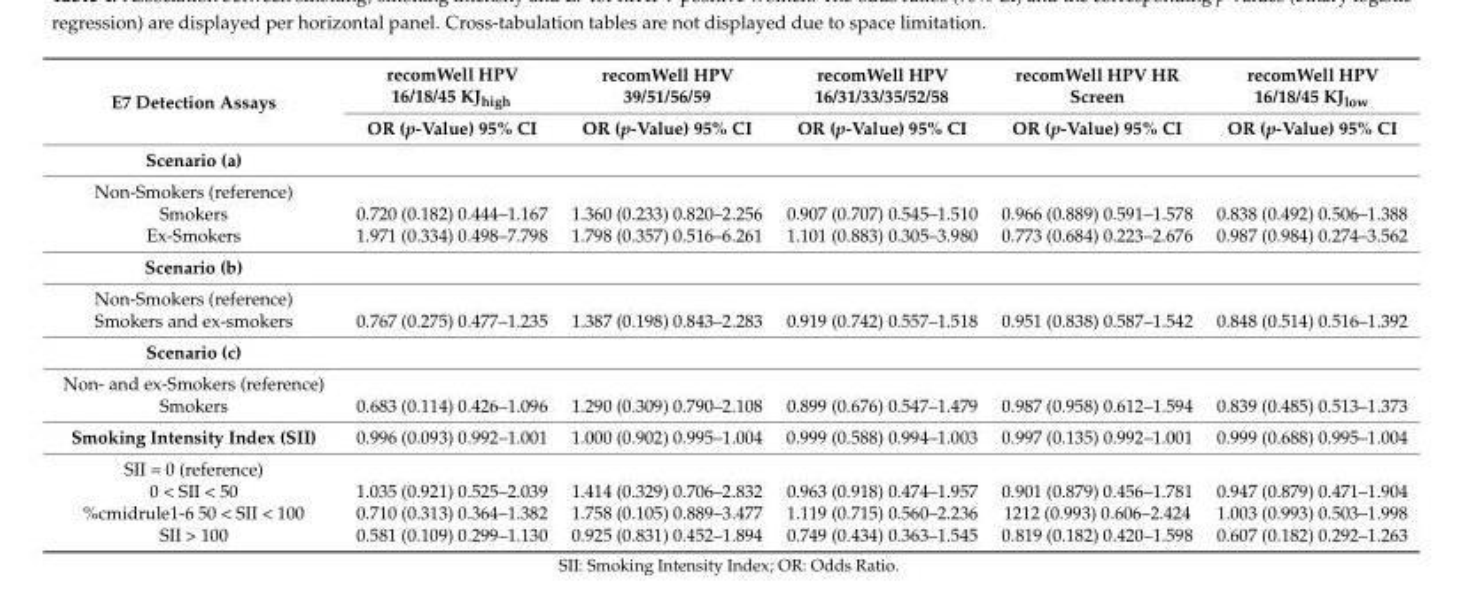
<table><thead><tr><td rowspan="2">E7 Detection Assays</td><td rowspan="2">recomWell HPV 16/18/45 KJ<sub>high</sub> OR (p-Value) 95% CI</td><td rowspan="2">recomWell HPV 39/51/56/59 OR (p-Value) 95% CI</td><td rowspan="2">recomWell HPV 16/31/33/35/52/58 OR (p-Value) 95% CI</td><td rowspan="2">recomWell HPV HR Screen OR (p-Value) 95% CI</td><td rowspan="2">recomWell HPV 16/18/45 KJ<sub>low</sub> OR (p-Value) 95% CI</td></tr><tr></tr></thead><tbody><tr><td colspan="6">Scenario (a)</td></tr><tr><td colspan="6">Non-Smokers (reference)</td></tr><tr><td>Smokers</td><td>0.720 (0.182) 0.444–1.167</td><td>1.360 (0.233) 0.820–2.256</td><td>0.907 (0.707) 0.545–1.510</td><td>0.966 (0.889) 0.591–1.578</td><td>0.838 (0.492) 0.506–1.388</td></tr><tr><td>Ex-Smokers</td><td>1.971 (0.334) 0.498–7.798</td><td>1.798 (0.357) 0.516–6.261</td><td>1.101 (0.883) 0.305–3.980</td><td>0.773 (0.684) 0.223–2.676</td><td>0.987 (0.984) 0.274–3.562</td></tr><tr><td colspan="6">Scenario (b)</td></tr><tr><td colspan="6">Non-Smokers (reference)</td></tr><tr><td>Smokers and ex-smokers</td><td>0.767 (0.275) 0.477–1.235</td><td>1.387 (0.198) 0.843–2.283</td><td>0.919 (0.742) 0.557–1.518</td><td>0.951 (0.838) 0.587–1.542</td><td>0.848 (0.514) 0.516–1.392</td></tr><tr><td colspan="6">Scenario (c)</td></tr><tr><td colspan="6">Non- and ex-Smokers (reference)</td></tr><tr><td>Smokers</td><td>0.683 (0.114) 0.426–1.096</td><td>1.290 (0.309) 0.790–2.108</td><td>0.899 (0.676) 0.547–1.479</td><td>0.987 (0.958) 0.612–1.594</td><td>0.839 (0.485) 0.513–1.373</td></tr><tr><td>Smoking Intensity Index (SII)</td><td>0.996 (0.093) 0.992–1.001</td><td>1.000 (0.902) 0.995–1.004</td><td>0.999 (0.588) 0.994–1.003</td><td>0.997 (0.135) 0.992–1.001</td><td>0.999 (0.688) 0.995–1.004</td></tr><tr><td colspan="6">SII = 0 (reference)</td></tr><tr><td>0 &lt; SII &lt; 50</td><td>1.035 (0.921) 0.525–2.039</td><td>1.414 (0.329) 0.706–2.832</td><td>0.963 (0.918) 0.474–1.957</td><td>0.901 (0.879) 0.456–1.781</td><td>0.947 (0.879) 0.471–1.904</td></tr><tr><td>%cmidrule1-6 50 &lt; SII &lt; 100</td><td>0.710 (0.313) 0.364–1.382</td><td>1.758 (0.105) 0.889–3.477</td><td>1.119 (0.715) 0.560–2.236</td><td>1212 (0.993) 0.606–2.424</td><td>1.003 (0.993) 0.503–1.998</td></tr><tr><td>SII &gt; 100</td><td>0.581 (0.109) 0.299–1.130</td><td>0.925 (0.831) 0.452–1.894</td><td>0.749 (0.434) 0.363–1.545</td><td>0.819 (0.182) 0.420–1.598</td><td>0.607 (0.182) 0.292–1.263</td></tr></tbody></table>